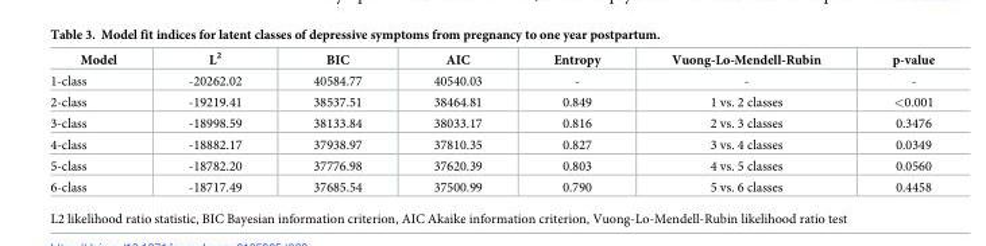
<table><thead><tr><td>Model</td><td>L<sup>2</sup></td><td>BIC</td><td>AIC</td><td>Entropy</td><td>Vuong-Lo-Mendell-Rubin</td><td>p-value</td></tr></thead><tbody><tr><td>1-class</td><td>-20262.02</td><td>40584.77</td><td>40540.03</td><td>-</td><td>-</td><td>-</td></tr><tr><td>2-class</td><td>-19219.41</td><td>38537.51</td><td>38464.81</td><td>0.849</td><td>1 vs. 2 classes</td><td>&lt;0.001</td></tr><tr><td>3-class</td><td>-18998.59</td><td>38133.84</td><td>38033.17</td><td>0.816</td><td>2 vs. 3 classes</td><td>0.3476</td></tr><tr><td>4-class</td><td>-18882.17</td><td>37938.97</td><td>37810.35</td><td>0.827</td><td>3 vs. 4 classes</td><td>0.0349</td></tr><tr><td>5-class</td><td>-18782.20</td><td>37776.98</td><td>37620.39</td><td>0.803</td><td>4 vs. 5 classes</td><td>0.0560</td></tr><tr><td>6-class</td><td>-18717.49</td><td>37685.54</td><td>37500.99</td><td>0.790</td><td>5 vs. 6 classes</td><td>0.4458</td></tr></tbody></table>